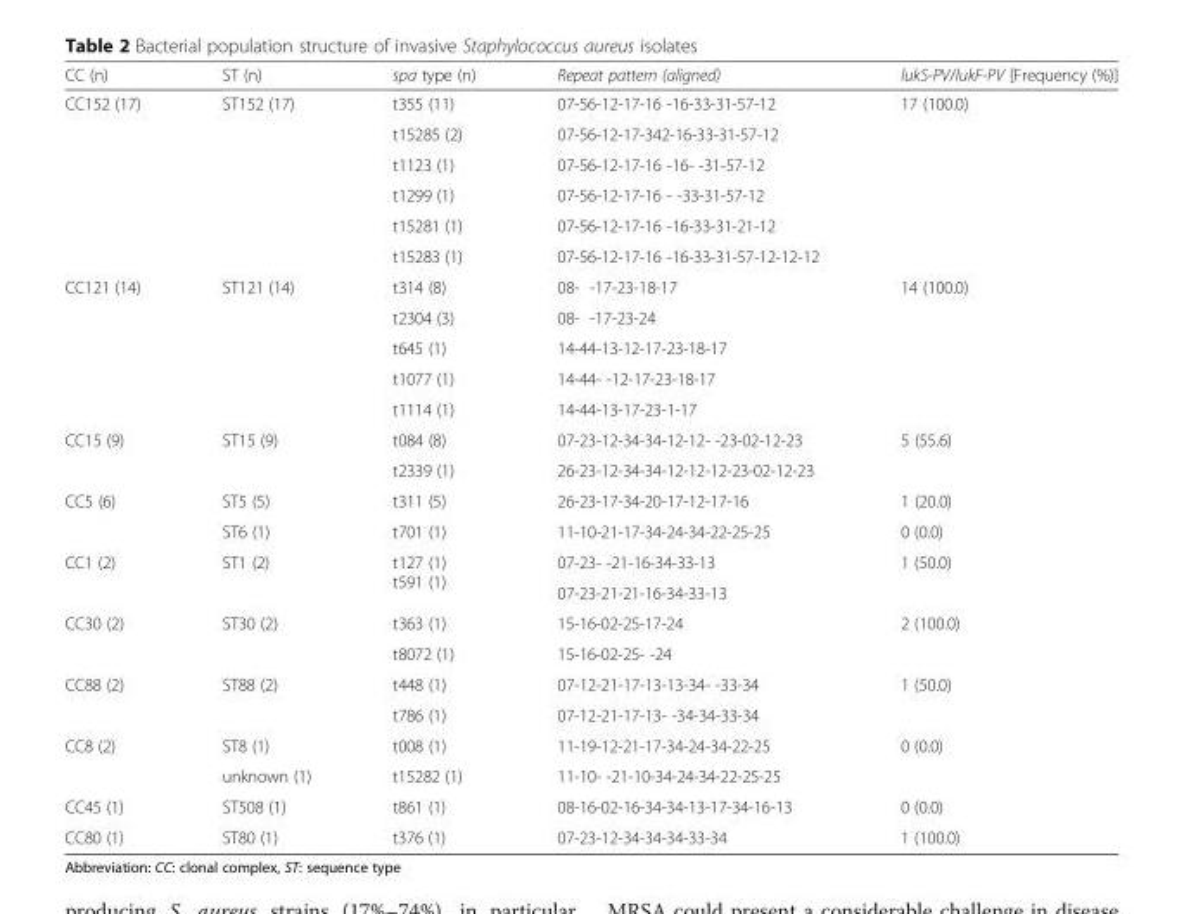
<table><thead><tr><td>CC (n)</td><td>ST (n)</td><td>spa type (n)</td><td>Repeat pattern (aligned)</td><td>lukS-PV/lukF-PV [Frequency (%)]</td></tr></thead><tbody><tr><td rowspan="6">CC152 (17)</td><td rowspan="6">ST152 (17)</td><td>t355 (11)</td><td>07-56-12-17-16 -16-33-31-57-12</td><td rowspan="6">17 (100.0)</td></tr><tr><td>t15285 (2)</td><td>07-56-12-17-342-16-33-31-57-12</td></tr><tr><td>t1123 (1)</td><td>07-56-12-17-16 -16- -31-57-12</td></tr><tr><td>t1299 (1)</td><td>07-56-12-17-16 - -33-31-57-12</td></tr><tr><td>t15281 (1)</td><td>07-56-12-17-16 -16-33-31-21-12</td></tr><tr><td>t15283 (1)</td><td>07-56-12-17-16 -16-33-31-57-12-12-12</td></tr><tr><td rowspan="5">CC121 (14)</td><td rowspan="4">ST121 (14)</td><td>t314 (8)</td><td>08- -17-23-18-17</td><td rowspan="4">14 (100.0)</td></tr><tr><td>t2304 (3)</td><td>08- -17-23-24</td></tr><tr><td>t645 (1)</td><td>14-44-13-12-17-23-18-17</td></tr><tr><td>t1077 (1)</td><td>14-44- -12-17-23-18-17</td></tr><tr><td></td><td>t1114 (1)</td><td>14-44-13-17-23-1-17</td><td></td></tr><tr><td rowspan="2">CC15 (9)</td><td rowspan="2">ST15 (9)</td><td>t084 (8)</td><td>07-23-12-34-34-12-12- -23-02-12-23</td><td rowspan="2">5 (55.6)</td></tr><tr><td>t2339 (1)</td><td>26-23-12-34-34-12-12-12-23-02-12-23</td></tr><tr><td rowspan="2">CC5 (6)</td><td>ST5 (5)</td><td>t311 (5)</td><td>26-23-17-34-20-17-12-17-16</td><td>1 (20.0)</td></tr><tr><td>ST6 (1)</td><td>t701 (1)</td><td>11-10-21-17-34-24-34-22-25-25</td><td>0 (0.0)</td></tr><tr><td rowspan="2">CC1 (2)</td><td rowspan="2">ST1 (2)</td><td rowspan="2">t127 (1) t591 (1)</td><td>07-23- -21-16-34-33-13</td><td rowspan="2">1 (50.0)</td></tr><tr><td>07-23-21-21-16-34-33-13</td></tr><tr><td rowspan="2">CC30 (2)</td><td rowspan="2">ST30 (2)</td><td>t363 (1)</td><td>15-16-02-25-17-24</td><td rowspan="2">2 (100.0)</td></tr><tr><td>t8072 (1)</td><td>15-16-02-25- -24</td></tr><tr><td rowspan="2">CC88 (2)</td><td rowspan="2">ST88 (2)</td><td>t448 (1)</td><td>07-12-21-17-13-13-34- -33-34</td><td rowspan="2">1 (50.0)</td></tr><tr><td>t786 (1)</td><td>07-12-21-17-13- -34-34-33-34</td></tr><tr><td rowspan="2">CC8 (2)</td><td>ST8 (1)</td><td>t008 (1)</td><td>11-19-12-21-17-34-24-34-22-25</td><td rowspan="2">0 (0.0)</td></tr><tr><td>unknown (1)</td><td>t15282 (1)</td><td>11-10- -21-10-34-24-34-22-25-25</td></tr><tr><td>CC45 (1)</td><td>ST508 (1)</td><td>t861 (1)</td><td>08-16-02-16-34-34-13-17-34-16-13</td><td>0 (0.0)</td></tr><tr><td>CC80 (1)</td><td>ST80 (1)</td><td>t376 (1)</td><td>07-23-12-34-34-34-33-34</td><td>1 (100.0)</td></tr></tbody></table>